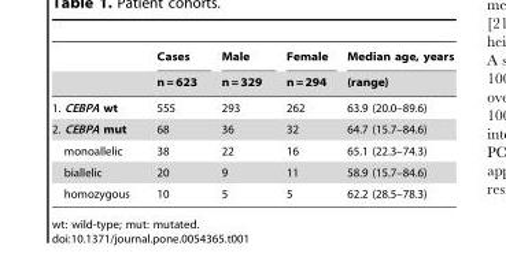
<table><thead><tr><td rowspan="2"></td><td rowspan="2">Cases n = 623</td><td rowspan="2">Male n = 329</td><td rowspan="2">Female n = 294</td><td rowspan="2">Median age, years (range)</td></tr><tr></tr></thead><tbody><tr><td>1. CEBPA wt</td><td>555</td><td>293</td><td>262</td><td>63.9 (20.0–89.6)</td></tr><tr><td>2. CEBPA mut</td><td>68</td><td>36</td><td>32</td><td>64.7 (15.7–84.6)</td></tr><tr><td>monoallelic</td><td>38</td><td>22</td><td>16</td><td>65.1 (22.3–74.3)</td></tr><tr><td>biallelic</td><td>20</td><td>9</td><td>11</td><td>58.9 (15.7–84.6)</td></tr><tr><td>homozygous</td><td>10</td><td>5</td><td>5</td><td>62.2 (28.5–78.3)</td></tr></tbody></table>